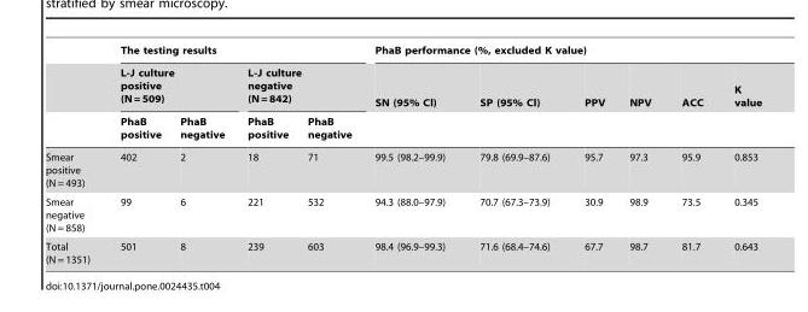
<table><thead><tr><td rowspan="3"></td><td colspan="4">The testing results</td><td colspan="6">PhaB performance (%, excluded K value)</td></tr><tr><td colspan="2">L-J culture positive (N = 509)</td><td colspan="2">L-J culture negative (N = 842)</td><td rowspan="2">SN (95% Cl)</td><td rowspan="2">SP (95% Cl)</td><td rowspan="2">PPV</td><td rowspan="2">NPV</td><td rowspan="2">ACC</td><td rowspan="2">K value</td></tr><tr><td>PhaB positive</td><td>PhaB negative</td><td>PhaB positive</td><td>PhaB negative</td></tr></thead><tbody><tr><td>Smear positive (N = 493)</td><td>402</td><td>2</td><td>18</td><td>71</td><td>99.5 (98.2–99.9)</td><td>79.8 (69.9–87.6)</td><td>95.7</td><td>97.3</td><td>95.9</td><td>0.853</td></tr><tr><td>Smear negative (N = 858)</td><td>99</td><td>6</td><td>221</td><td>532</td><td>94.3 (88.0–97.9)</td><td>70.7 (67.3–73.9)</td><td>30.9</td><td>98.9</td><td>73.5</td><td>0.345</td></tr><tr><td>Total (N = 1351)</td><td>501</td><td>8</td><td>239</td><td>603</td><td>98.4 (96.9–99.3)</td><td>71.6 (68.4–74.6)</td><td>67.7</td><td>98.7</td><td>81.7</td><td>0.643</td></tr></tbody></table>